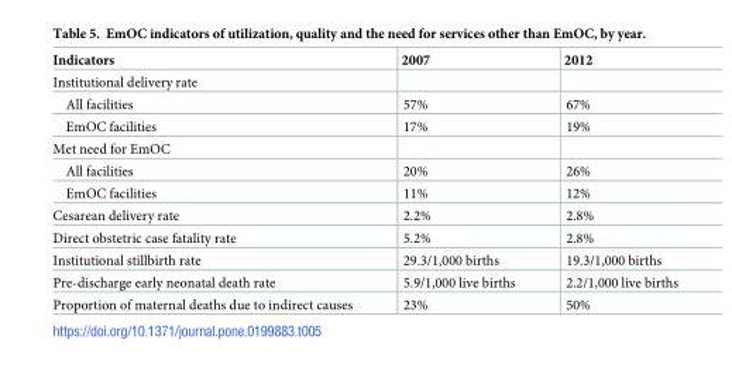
<table><thead><tr><td>Indicators</td><td>2007</td><td>2012</td></tr></thead><tbody><tr><td colspan="3">Institutional delivery rate</td></tr><tr><td>All facilities</td><td>57%</td><td>67%</td></tr><tr><td>EmOC facilities</td><td>17%</td><td>19%</td></tr><tr><td colspan="3">Met need for EmOC</td></tr><tr><td>All facilities</td><td>20%</td><td>26%</td></tr><tr><td>EmOC facilities</td><td>11%</td><td>12%</td></tr><tr><td>Cesarean delivery rate</td><td>2.2%</td><td>2.8%</td></tr><tr><td>Direct obstetric case fatality rate</td><td>5.2%</td><td>2.8%</td></tr><tr><td>Institutional stillbirth rate</td><td>29.3/1,000 births</td><td>19.3/1,000 births</td></tr><tr><td>Pre-discharge early neonatal death rate</td><td>5.9/1,000 live births</td><td>2.2/1,000 live births</td></tr><tr><td>Proportion of maternal deaths due to indirect causes</td><td>23%</td><td>50%</td></tr></tbody></table>